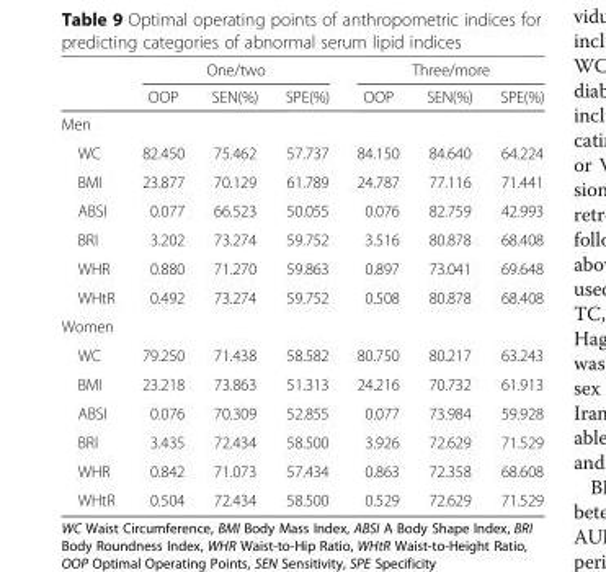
<table><thead><tr><td rowspan="2"></td><td colspan="3">One/two</td><td colspan="3">Three/more</td></tr><tr><td>OOP</td><td>SEN(%)</td><td>SPE(%)</td><td>OOP</td><td>SEN(%)</td><td>SPE(%)</td></tr></thead><tbody><tr><td colspan="7">Men</td></tr><tr><td>WC</td><td>82.450</td><td>75.462</td><td>57.737</td><td>84.150</td><td>84.640</td><td>64.224</td></tr><tr><td>BMI</td><td>23.877</td><td>70.129</td><td>61.789</td><td>24.787</td><td>77.116</td><td>71.441</td></tr><tr><td>ABSI</td><td>0.077</td><td>66.523</td><td>50.055</td><td>0.076</td><td>82.759</td><td>42.993</td></tr><tr><td>BRI</td><td>3.202</td><td>73.274</td><td>59.752</td><td>3.516</td><td>80.878</td><td>68.408</td></tr><tr><td>WHR</td><td>0.880</td><td>71.270</td><td>59.863</td><td>0.897</td><td>73.041</td><td>69.648</td></tr><tr><td>WHtR</td><td>0.492</td><td>73.274</td><td>59.752</td><td>0.508</td><td>80.878</td><td>68.408</td></tr><tr><td colspan="7">Women</td></tr><tr><td>WC</td><td>79.250</td><td>71.438</td><td>58.582</td><td>80.750</td><td>80.217</td><td>63.243</td></tr><tr><td>BMI</td><td>23.218</td><td>73.863</td><td>51.313</td><td>24.216</td><td>70.732</td><td>61.913</td></tr><tr><td>ABSI</td><td>0.076</td><td>70.309</td><td>52.855</td><td>0.077</td><td>73.984</td><td>59.928</td></tr><tr><td>BRI</td><td>3.435</td><td>72.434</td><td>58.500</td><td>3.926</td><td>72.629</td><td>71.529</td></tr><tr><td>WHR</td><td>0.842</td><td>71.073</td><td>57.434</td><td>0.863</td><td>72.358</td><td>68.608</td></tr><tr><td>WHtR</td><td>0.504</td><td>72.434</td><td>58.500</td><td>0.529</td><td>72.629</td><td>71.529</td></tr></tbody></table>